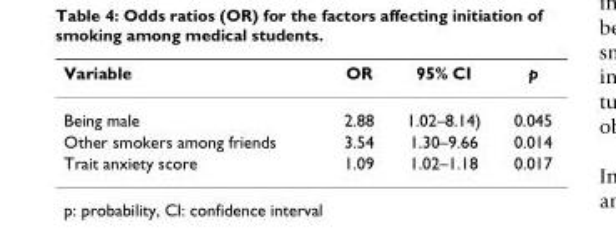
<table><thead><tr><td>Variable</td><td>OR</td><td>95% CI</td><td>p</td></tr></thead><tbody><tr><td>Being male</td><td>2.88</td><td>1.02–8.14)</td><td>0.045</td></tr><tr><td>Other smokers among friends</td><td>3.54</td><td>1.30–9.66</td><td>0.014</td></tr><tr><td>Trait anxiety score</td><td>1.09</td><td>1.02–1.18</td><td>0.017</td></tr></tbody></table>